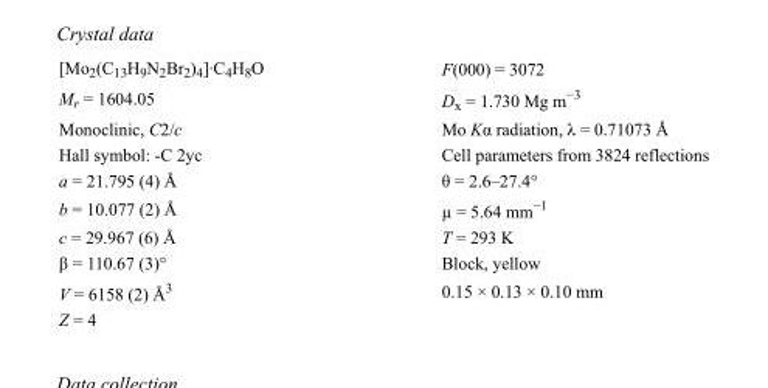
<table><tbody><tr><td>[Mo<sub>2</sub>(C<sub>13</sub>H<sub>9</sub>N<sub>2</sub>Br<sub>2</sub>)<sub>4</sub>]·C<sub>4</sub>H<sub>8</sub>O</td><td>F(000) = 3072</td></tr><tr><td>M<sub>r</sub> = 1604.05</td><td>D<sub>x</sub> = 1.730 Mg m<sup>−3</sup></td></tr><tr><td>Monoclinic, C2/c</td><td>Mo Kα radiation, λ = 0.71073 Å</td></tr><tr><td>Hall symbol: -C 2yc</td><td>Cell parameters from 3824 reflections</td></tr><tr><td>a = 21.795 (4) Å</td><td>θ = 2.6–27.4°</td></tr><tr><td>b = 10.077 (2) Å</td><td>µ = 5.64 mm<sup>−1</sup></td></tr><tr><td>c = 29.967 (6) Å</td><td>T = 293 K</td></tr><tr><td>β = 110.67 (3)°</td><td>Block, yellow</td></tr><tr><td>V = 6158 (2) Å<sup>3</sup></td><td>0.15 × 0.13 × 0.10 mm</td></tr><tr><td>Z = 4</td><td></td></tr></tbody></table>